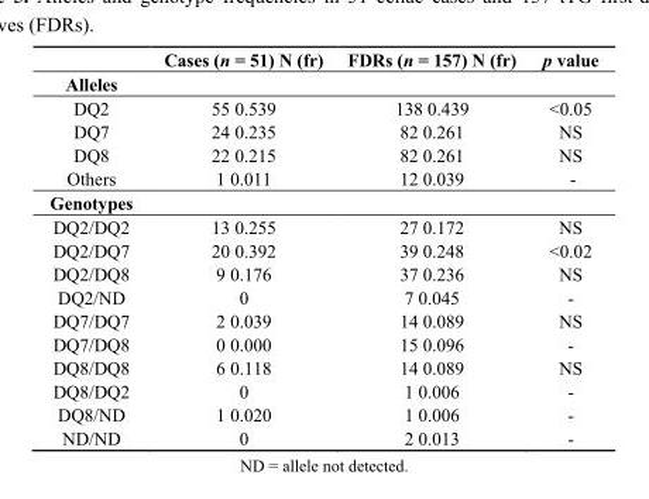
<table><thead><tr><td></td><td>Cases (n = 51) N (fr)</td><td>FDRs (n = 157) N (fr)</td><td>p value</td></tr></thead><tbody><tr><td colspan="4">Alleles</td></tr><tr><td>DQ2</td><td>55 0.539</td><td>138 0.439</td><td>&lt;0.05</td></tr><tr><td>DQ7</td><td>24 0.235</td><td>82 0.261</td><td>NS</td></tr><tr><td>DQ8</td><td>22 0.215</td><td>82 0.261</td><td>NS</td></tr><tr><td>Others</td><td>1 0.011</td><td>12 0.039</td><td>-</td></tr><tr><td colspan="4">Genotypes</td></tr><tr><td>DQ2/DQ2</td><td>13 0.255</td><td>27 0.172</td><td>NS</td></tr><tr><td>DQ2/DQ7</td><td>20 0.392</td><td>39 0.248</td><td>&lt;0.02</td></tr><tr><td>DQ2/DQ8</td><td>9 0.176</td><td>37 0.236</td><td>NS</td></tr><tr><td>DQ2/ND</td><td>0</td><td>7 0.045</td><td>-</td></tr><tr><td>DQ7/DQ7</td><td>2 0.039</td><td>14 0.089</td><td>NS</td></tr><tr><td>DQ7/DQ8</td><td>0 0.000</td><td>15 0.096</td><td>-</td></tr><tr><td>DQ8/DQ8</td><td>6 0.118</td><td>14 0.089</td><td>NS</td></tr><tr><td>DQ8/DQ2</td><td>0</td><td>1 0.006</td><td>-</td></tr><tr><td>DQ8/ND</td><td>1 0.020</td><td>1 0.006</td><td>-</td></tr><tr><td>ND/ND</td><td>0</td><td>2 0.013</td><td>-</td></tr></tbody></table>